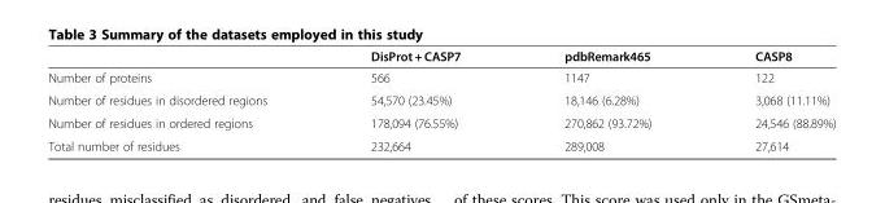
<table><thead><tr><td></td><td>DisProt + CASP7</td><td>pdbRemark465</td><td>CASP8</td></tr></thead><tbody><tr><td>Number of proteins</td><td>566</td><td>1147</td><td>122</td></tr><tr><td>Number of residues in disordered regions</td><td>54,570 (23.45%)</td><td>18,146 (6.28%)</td><td>3,068 (11.11%)</td></tr><tr><td>Number of residues in ordered regions</td><td>178,094 (76.55%)</td><td>270,862 (93.72%)</td><td>24,546 (88.89%)</td></tr><tr><td>Total number of residues</td><td>232,664</td><td>289,008</td><td>27,614</td></tr></tbody></table>